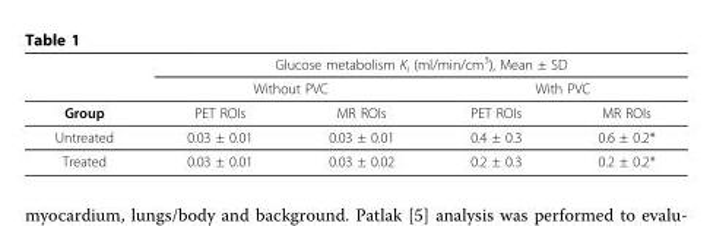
<table><thead><tr><td rowspan="3">Group</td><td colspan="4">Glucose metabolism K<sub>i</sub> (ml/min/cm<sup>3</sup>), Mean ± SD</td></tr><tr><td colspan="2">Without PVC</td><td colspan="2">With PVC</td></tr><tr><td>PET ROIs</td><td>MR ROIs</td><td>PET ROIs</td><td>MR ROIs</td></tr></thead><tbody><tr><td>Untreated</td><td>0.03 ± 0.01</td><td>0.03 ± 0.01</td><td>0.4 ± 0.3</td><td>0.6 ± 0.2*</td></tr><tr><td>Treated</td><td>0.03 ± 0.01</td><td>0.03 ± 0.02</td><td>0.2 ± 0.3</td><td>0.2 ± 0.2*</td></tr></tbody></table>